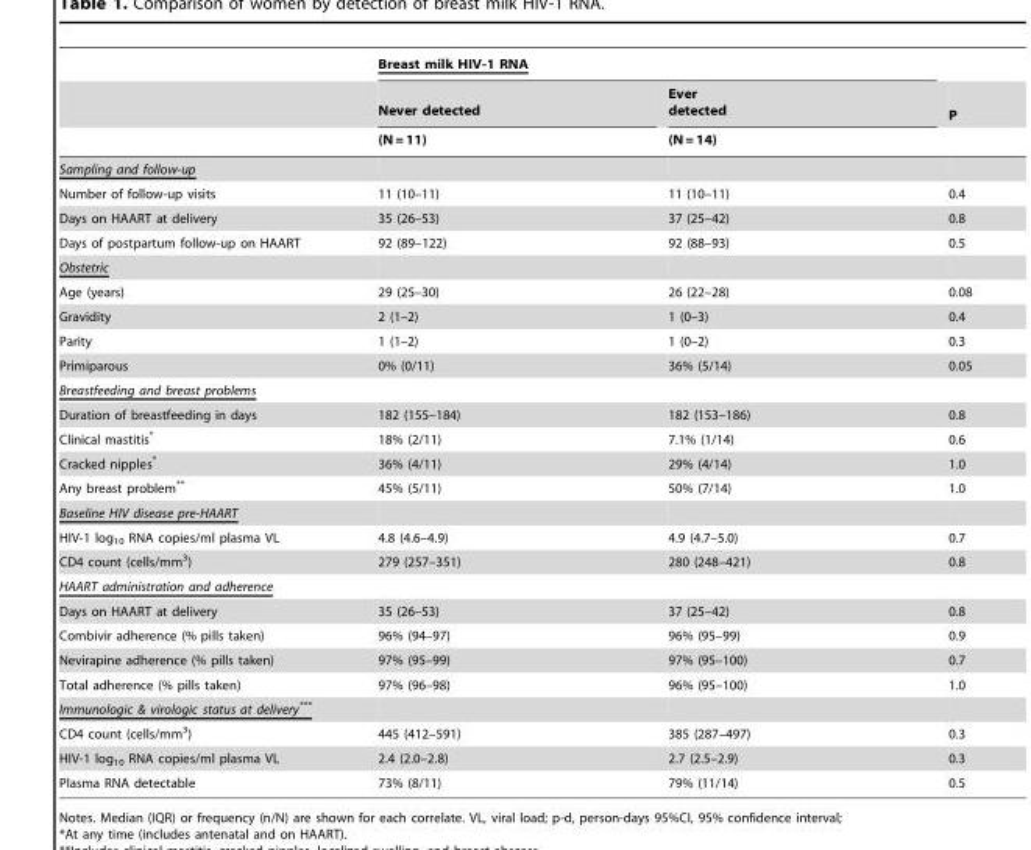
<table><thead><tr><td rowspan="3"></td><td colspan="2">Breast milk HIV-1 RNA</td><td rowspan="3">P</td></tr><tr><td rowspan="2">Never detected (N = 11)</td><td rowspan="2">Ever detected (N = 14)</td></tr><tr></tr></thead><tbody><tr><td colspan="4">Sampling and follow-up</td></tr><tr><td>Number of follow-up visits</td><td>11 (10–11)</td><td>11 (10–11)</td><td>0.4</td></tr><tr><td>Days on HAART at delivery</td><td>35 (26–53)</td><td>37 (25–42)</td><td>0.8</td></tr><tr><td>Days of postpartum follow-up on HAART</td><td>92 (89–122)</td><td>92 (88–93)</td><td>0.5</td></tr><tr><td colspan="4">Obstetric</td></tr><tr><td>Age (years)</td><td>29 (25–30)</td><td>26 (22–28)</td><td>0.08</td></tr><tr><td>Gravidity</td><td>2 (1–2)</td><td>1 (0–3)</td><td>0.4</td></tr><tr><td>Parity</td><td>1 (1–2)</td><td>1 (0–2)</td><td>0.3</td></tr><tr><td>Primiparous</td><td>0% (0/11)</td><td>36% (5/14)</td><td>0.05</td></tr><tr><td colspan="4">Breastfeeding and breast problems</td></tr><tr><td>Duration of breastfeeding in days</td><td>182 (155–184)</td><td>182 (153–186)</td><td>0.8</td></tr><tr><td>Clinical mastitis*</td><td>18% (2/11)</td><td>7.1% (1/14)</td><td>0.6</td></tr><tr><td>Cracked nipples*</td><td>36% (4/11)</td><td>29% (4/14)</td><td>1.0</td></tr><tr><td>Any breast problem**</td><td>45% (5/11)</td><td>50% (7/14)</td><td>1.0</td></tr><tr><td colspan="4">Baseline HIV disease pre-HAART</td></tr><tr><td>HIV-1 log<sub>10</sub> RNA copies/ml plasma VL</td><td>4.8 (4.6–4.9)</td><td>4.9 (4.7–5.0)</td><td>0.7</td></tr><tr><td>CD4 count (cells/mm<sup>3</sup>)</td><td>279 (257–351)</td><td>280 (248–421)</td><td>0.8</td></tr><tr><td colspan="4">HAART administration and adherence</td></tr><tr><td>Days on HAART at delivery</td><td>35 (26–53)</td><td>37 (25–42)</td><td>0.8</td></tr><tr><td>Combivir adherence (% pills taken)</td><td>96% (94–97)</td><td>96% (95–99)</td><td>0.9</td></tr><tr><td>Nevirapine adherence (% pills taken)</td><td>97% (95–99)</td><td>97% (95–100)</td><td>0.7</td></tr><tr><td>Total adherence (% pills taken)</td><td>97% (96–98)</td><td>96% (95–100)</td><td>1.0</td></tr><tr><td colspan="4">Immunologic &amp; virologic status at delivery***</td></tr><tr><td>CD4 count (cells/mm<sup>3</sup>)</td><td>445 (412–591)</td><td>385 (287–497)</td><td>0.3</td></tr><tr><td>HIV-1 log<sub>10</sub> RNA copies/ml plasma VL</td><td>2.4 (2.0–2.8)</td><td>2.7 (2.5–2.9)</td><td>0.3</td></tr><tr><td>Plasma RNA detectable</td><td>73% (8/11)</td><td>79% (11/14)</td><td>0.5</td></tr></tbody></table>